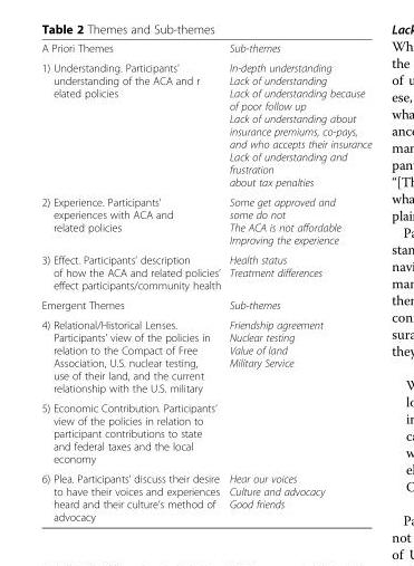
<table><tbody><tr><td>A Priori Themes</td><td>Sub-themes</td></tr><tr><td>1) Understanding. Participants’ understanding of the ACA and r elated policies</td><td>In-depth understanding Lack of understanding Lack of understanding because of poor follow up Lack of understanding about insurance premiums, co-pays, and who accepts their insurance Lack of understanding and frustration about tax penalties</td></tr><tr><td>2) Experience. Participants’ experiences with ACA and related policies</td><td>Some get approved and some do not The ACA is not affordable Improving the experience</td></tr><tr><td>3) Effect. Participants’ description of how the ACA and related policies’ effect participants/community health</td><td>Health status Treatment differences</td></tr><tr><td>Emergent Themes</td><td>Sub-themes</td></tr><tr><td>4) Relational/Historical Lenses. Participants’ view of the policies in relation to the Compact of Free Association, U.S. nuclear testing, use of their land, and the current relationship with the U.S. military</td><td>Friendship agreement Nuclear testing Value of land Military Service</td></tr><tr><td colspan="2">5) Economic Contribution. Participants’ view of the policies in relation to participant contributions to state and federal taxes and the local economy</td></tr><tr><td>6) Plea. Participants’ discuss their desire to have their voices and experiences heard and their culture’s method of advocacy</td><td>Hear our voices Culture and advocacy Good friends</td></tr></tbody></table>